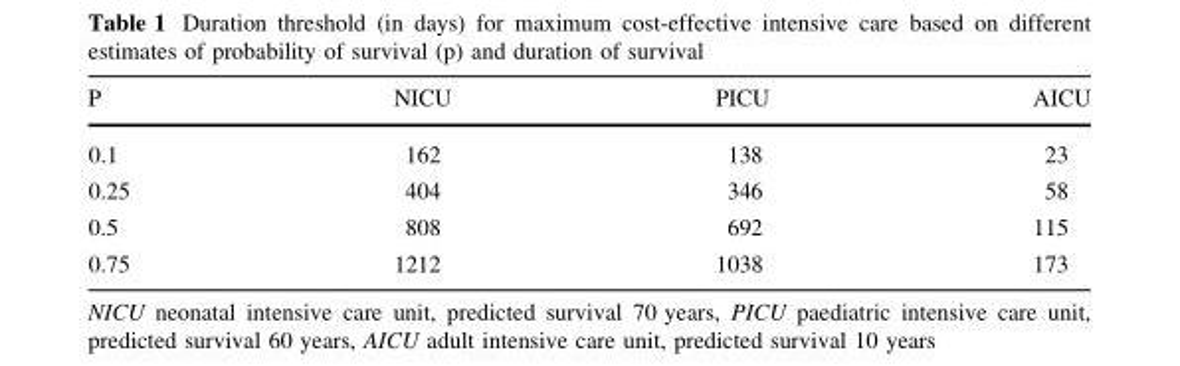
<table><thead><tr><td>P</td><td>NICU</td><td>PICU</td><td>AICU</td></tr></thead><tbody><tr><td>0.1</td><td>162</td><td>138</td><td>23</td></tr><tr><td>0.25</td><td>404</td><td>346</td><td>58</td></tr><tr><td>0.5</td><td>808</td><td>692</td><td>115</td></tr><tr><td>0.75</td><td>1212</td><td>1038</td><td>173</td></tr></tbody></table>